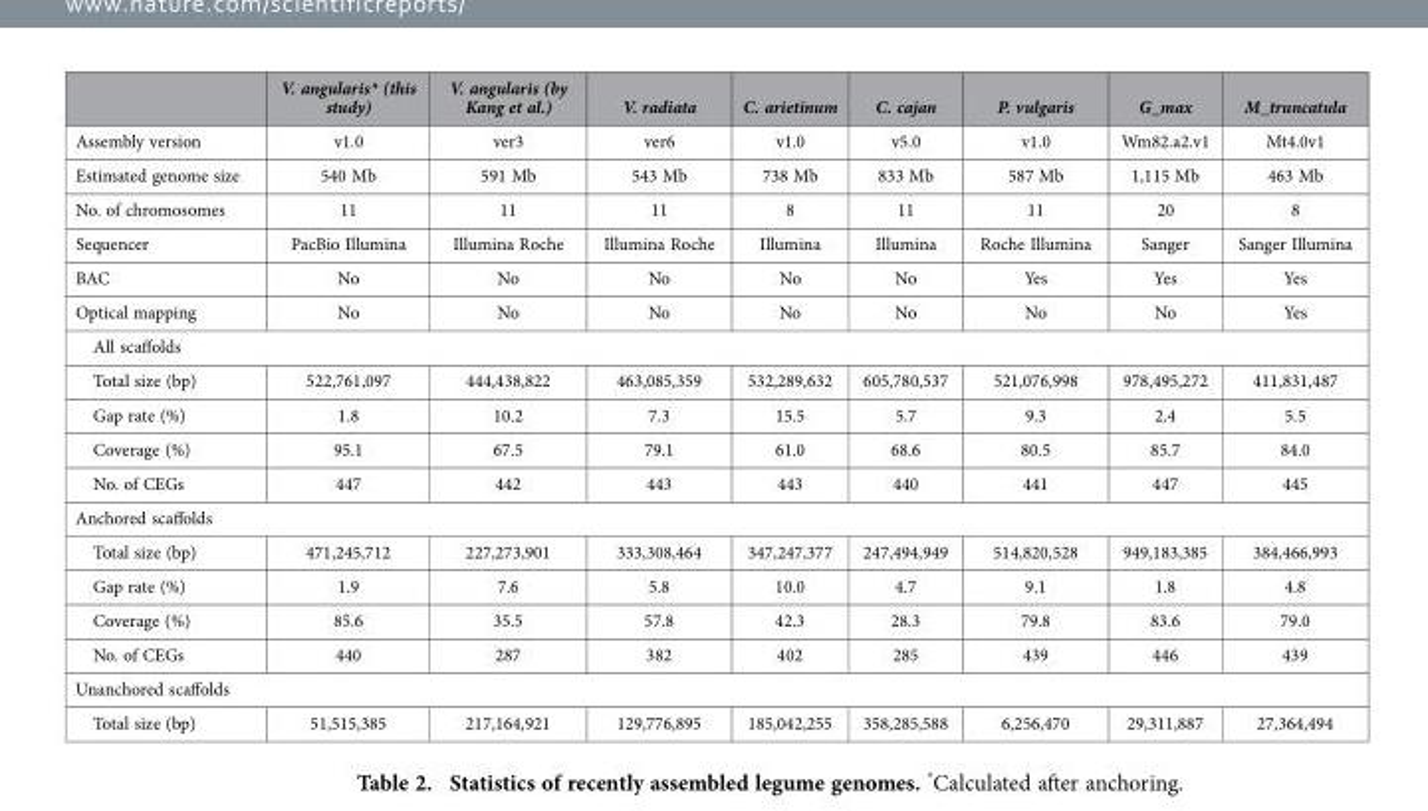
<table><thead><tr><td></td><td>V. angularis* (this study)</td><td>V. angularis (by Kang et al.)</td><td>V. radiata</td><td>C. arietinum</td><td>C. cajan</td><td>P. vulgaris</td><td>G_max</td><td>M_truncatula</td></tr></thead><tbody><tr><td>Assembly version</td><td>v1.0</td><td>ver3</td><td>ver6</td><td>v1.0</td><td>v5.0</td><td>v1.0</td><td>Wm82.a2.v1</td><td>Mt4.0v1</td></tr><tr><td>Estimated genome size</td><td>540 Mb</td><td>591 Mb</td><td>543 Mb</td><td>738 Mb</td><td>833 Mb</td><td>587 Mb</td><td>1,115 Mb</td><td>463 Mb</td></tr><tr><td>No. of chromosomes</td><td>11</td><td>11</td><td>11</td><td>8</td><td>11</td><td>11</td><td>20</td><td>8</td></tr><tr><td>Sequencer</td><td>PacBio Illumina</td><td>Illumina Roche</td><td>Illumina Roche</td><td>Illumina</td><td>Illumina</td><td>Roche Illumina</td><td>Sanger</td><td>Sanger Illumina</td></tr><tr><td>BAC</td><td>No</td><td>No</td><td>No</td><td>No</td><td>No</td><td>Yes</td><td>Yes</td><td>Yes</td></tr><tr><td>Optical mapping</td><td>No</td><td>No</td><td>No</td><td>No</td><td>No</td><td>No</td><td>No</td><td>Yes</td></tr><tr><td colspan="9">All scaffolds</td></tr><tr><td>Total size (bp)</td><td>522,761,097</td><td>444,438,822</td><td>463,085,359</td><td>532,289,632</td><td>605,780,537</td><td>521,076,998</td><td>978,495,272</td><td>411,831,487</td></tr><tr><td>Gap rate (%)</td><td>1.8</td><td>10.2</td><td>7.3</td><td>15.5</td><td>5.7</td><td>9.3</td><td>2.4</td><td>5.5</td></tr><tr><td>Coverage (%)</td><td>95.1</td><td>67.5</td><td>79.1</td><td>61.0</td><td>68.6</td><td>80.5</td><td>85.7</td><td>84.0</td></tr><tr><td>No. of CEGs</td><td>447</td><td>442</td><td>443</td><td>443</td><td>440</td><td>441</td><td>447</td><td>445</td></tr><tr><td colspan="9">Anchored scaffolds</td></tr><tr><td>Total size (bp)</td><td>471,245,712</td><td>227,273,901</td><td>333,308,464</td><td>347,247,377</td><td>247,494,949</td><td>514,820,528</td><td>949,183,385</td><td>384,466,993</td></tr><tr><td>Gap rate (%)</td><td>1.9</td><td>7.6</td><td>5.8</td><td>10.0</td><td>4.7</td><td>9.1</td><td>1.8</td><td>4.8</td></tr><tr><td>Coverage (%)</td><td>85.6</td><td>35.5</td><td>57.8</td><td>42.3</td><td>28.3</td><td>79.8</td><td>83.6</td><td>79.0</td></tr><tr><td>No. of CEGs</td><td>440</td><td>287</td><td>382</td><td>402</td><td>285</td><td>439</td><td>446</td><td>439</td></tr><tr><td colspan="9">Unanchored scaffolds</td></tr><tr><td>Total size (bp)</td><td>51,515,385</td><td>217,164,921</td><td>129,776,895</td><td>185,042,255</td><td>358,285,588</td><td>6,256,470</td><td>29,311,887</td><td>27,364,494</td></tr></tbody></table>